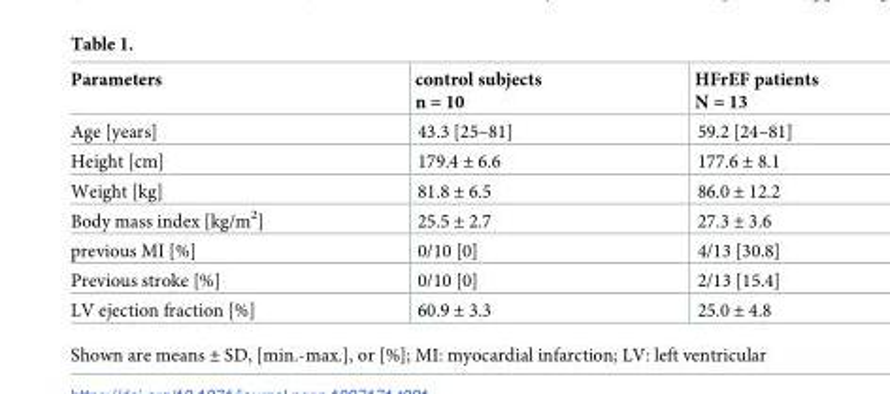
<table><thead><tr><td>Parameters</td><td>control subjects n = 10</td><td>HFrEF patients N = 13</td></tr></thead><tbody><tr><td>Age [years]</td><td>43.3 [25–81]</td><td>59.2 [24–81]</td></tr><tr><td>Height [cm]</td><td>179.4 ± 6.6</td><td>177.6 ± 8.1</td></tr><tr><td>Weight [kg]</td><td>81.8 ± 6.5</td><td>86.0 ± 12.2</td></tr><tr><td>Body mass index [kg/m<sup>2</sup>]</td><td>25.5 ± 2.7</td><td>27.3 ± 3.6</td></tr><tr><td>previous MI [%]</td><td>0/10 [0]</td><td>4/13 [30.8]</td></tr><tr><td>Previous stroke [%]</td><td>0/10 [0]</td><td>2/13 [15.4]</td></tr><tr><td>LV ejection fraction [%]</td><td>60.9 ± 3.3</td><td>25.0 ± 4.8</td></tr></tbody></table>